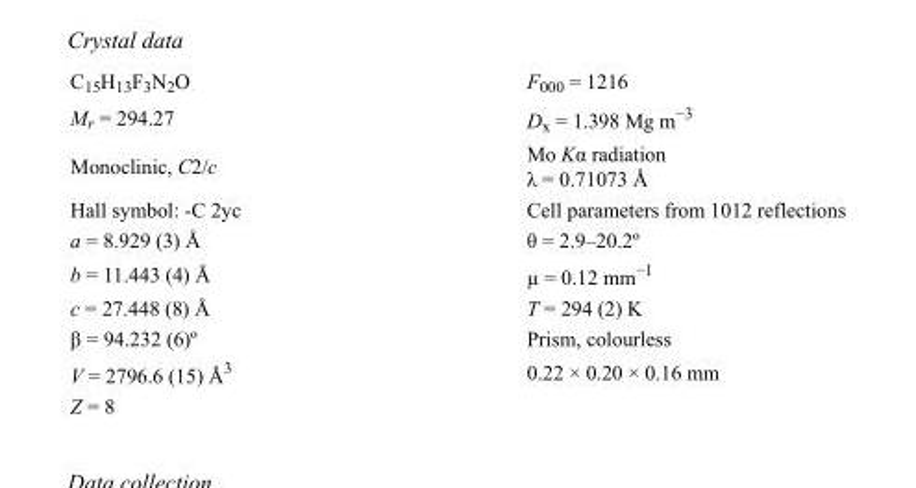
<table><tbody><tr><td>C<sub>15</sub>H<sub>13</sub>F<sub>3</sub>N<sub>2</sub>O</td><td>F<sub>000</sub> = 1216</td></tr><tr><td>M<sub>r</sub> = 294.27</td><td>D<sub>x</sub> = 1.398 Mg m<sup>−3</sup></td></tr><tr><td>Monoclinic, C2/c</td><td>Mo Kα radiation λ = 0.71073 Å</td></tr><tr><td>Hall symbol: -C 2yc</td><td>Cell parameters from 1012 reflections</td></tr><tr><td>a = 8.929 (3) Å</td><td>θ = 2.9–20.2º</td></tr><tr><td>b = 11.443 (4) Å</td><td>µ = 0.12 mm<sup>−1</sup></td></tr><tr><td>c = 27.448 (8) Å</td><td>T = 294 (2) K</td></tr><tr><td>β = 94.232 (6)º</td><td>Prism, colourless</td></tr><tr><td>V = 2796.6 (15) Å<sup>3</sup></td><td>0.22 × 0.20 × 0.16 mm</td></tr><tr><td>Z = 8</td><td></td></tr></tbody></table>